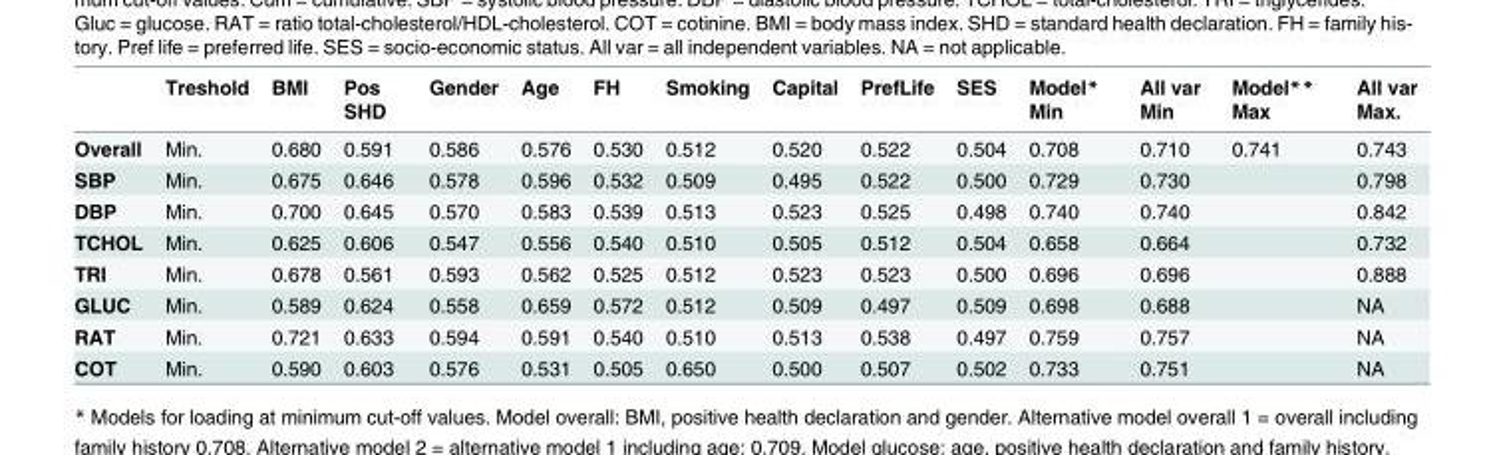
<table><thead><tr><td></td><td>Treshold</td><td>BMI</td><td>Pos SHD</td><td>Gender</td><td>Age</td><td>FH</td><td>Smoking</td><td>Capital</td><td>PrefLife</td><td>SES</td><td>Model* Min</td><td>All var Min</td><td>Model** Max</td><td>All var Max.</td></tr></thead><tbody><tr><td>Overall</td><td>Min.</td><td>0.680</td><td>0.591</td><td>0.586</td><td>0.576</td><td>0.530</td><td>0.512</td><td>0.520</td><td>0.522</td><td>0.504</td><td>0.708</td><td>0.710</td><td>0.741</td><td>0.743</td></tr><tr><td>SBP</td><td>Min.</td><td>0.675</td><td>0.646</td><td>0.578</td><td>0.596</td><td>0.532</td><td>0.509</td><td>0.495</td><td>0.522</td><td>0.500</td><td>0.729</td><td>0.730</td><td></td><td>0.798</td></tr><tr><td>DBP</td><td>Min.</td><td>0.700</td><td>0.645</td><td>0.570</td><td>0.583</td><td>0.539</td><td>0.513</td><td>0.523</td><td>0.525</td><td>0.498</td><td>0.740</td><td>0.740</td><td></td><td>0.842</td></tr><tr><td>TCHOL</td><td>Min.</td><td>0.625</td><td>0.606</td><td>0.547</td><td>0.556</td><td>0.540</td><td>0.510</td><td>0.505</td><td>0.512</td><td>0.504</td><td>0.658</td><td>0.664</td><td></td><td>0.732</td></tr><tr><td>TRI</td><td>Min.</td><td>0.678</td><td>0.561</td><td>0.593</td><td>0.562</td><td>0.525</td><td>0.512</td><td>0.523</td><td>0.523</td><td>0.500</td><td>0.696</td><td>0.696</td><td></td><td>0.888</td></tr><tr><td>GLUC</td><td>Min.</td><td>0.589</td><td>0.624</td><td>0.558</td><td>0.659</td><td>0.572</td><td>0.512</td><td>0.509</td><td>0.497</td><td>0.509</td><td>0.698</td><td>0.688</td><td></td><td>NA</td></tr><tr><td>RAT</td><td>Min.</td><td>0.721</td><td>0.633</td><td>0.594</td><td>0.591</td><td>0.540</td><td>0.510</td><td>0.513</td><td>0.538</td><td>0.497</td><td>0.759</td><td>0.757</td><td></td><td>NA</td></tr><tr><td>COT</td><td>Min.</td><td>0.590</td><td>0.603</td><td>0.576</td><td>0.531</td><td>0.505</td><td>0.650</td><td>0.500</td><td>0.507</td><td>0.502</td><td>0.733</td><td>0.751</td><td></td><td>NA</td></tr></tbody></table>